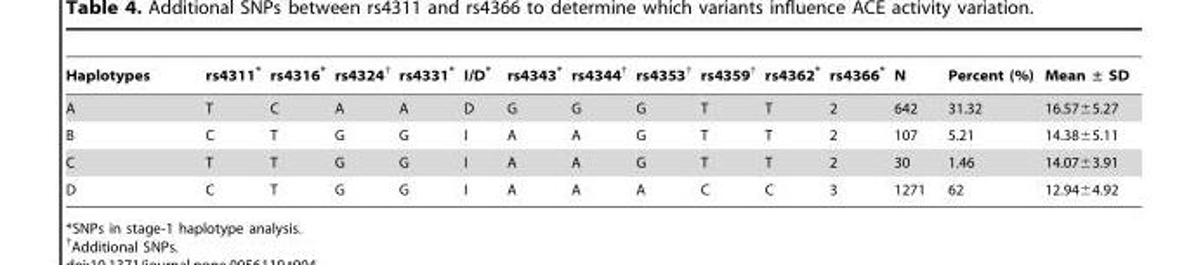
<table><thead><tr><td>Haplotypes</td><td>rs4311*</td><td>rs4316*</td><td>rs4324†</td><td>rs4331*</td><td>I/D*</td><td>rs4343*</td><td>rs4344†</td><td>rs4353†</td><td>rs4359†</td><td>rs4362*</td><td>rs4366*</td><td>N</td><td>Percent (%)</td><td>Mean ± SD</td></tr></thead><tbody><tr><td>A</td><td>T</td><td>C</td><td>A</td><td>A</td><td>D</td><td>G</td><td>G</td><td>G</td><td>T</td><td>T</td><td>2</td><td>642</td><td>31.32</td><td>16.57±5.27</td></tr><tr><td>B</td><td>C</td><td>T</td><td>G</td><td>G</td><td>I</td><td>A</td><td>A</td><td>G</td><td>T</td><td>T</td><td>2</td><td>107</td><td>5.21</td><td>14.38±5.11</td></tr><tr><td>C</td><td>T</td><td>T</td><td>G</td><td>G</td><td>I</td><td>A</td><td>A</td><td>G</td><td>T</td><td>T</td><td>2</td><td>30</td><td>1.46</td><td>14.07±3.91</td></tr><tr><td>D</td><td>C</td><td>T</td><td>G</td><td>G</td><td>I</td><td>A</td><td>A</td><td>A</td><td>C</td><td>C</td><td>3</td><td>1271</td><td>62</td><td>12.94±4.92</td></tr></tbody></table>